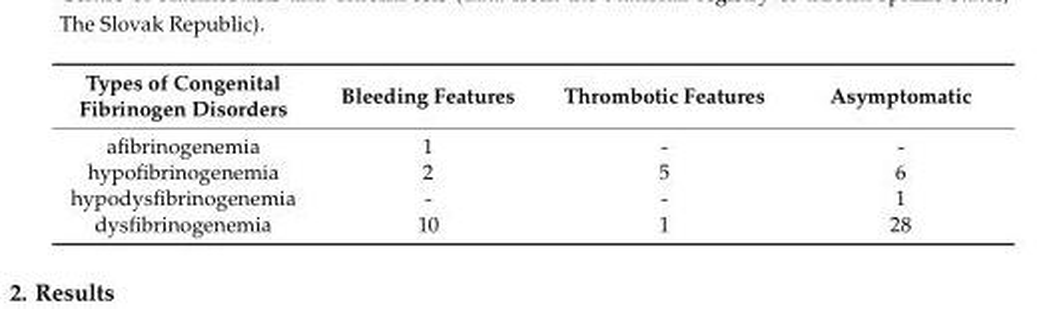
<table><thead><tr><td>Types of Congenital Fibrinogen Disorders</td><td>Bleeding Features</td><td>Thrombotic Features</td><td>Asymptomatic</td></tr></thead><tbody><tr><td>afibrinogenemia</td><td>1</td><td>-</td><td>-</td></tr><tr><td>hypofibrinogenemia</td><td>2</td><td>5</td><td>6</td></tr><tr><td>hypodysfibrinogenemia</td><td>-</td><td>-</td><td>1</td></tr><tr><td>dysfibrinogenemia</td><td>10</td><td>1</td><td>28</td></tr></tbody></table>